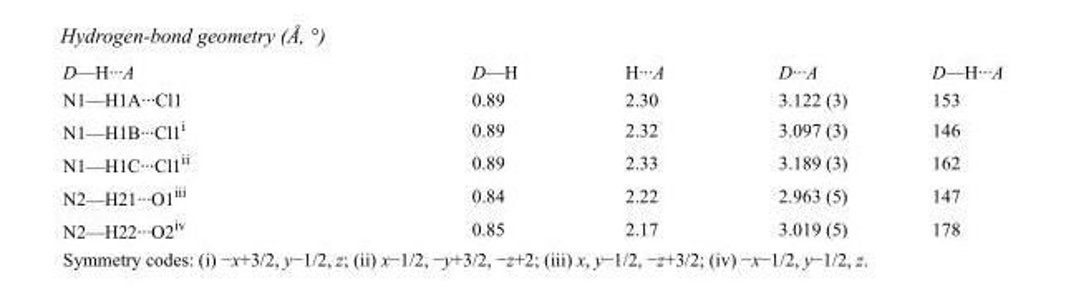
<table><tbody><tr><td>D—H···A</td><td>D—H</td><td>H···A</td><td>D···A</td><td>D—H···A</td></tr><tr><td>N1—H1A···Cl1</td><td>0.89</td><td>2.30</td><td>3.122 (3)</td><td>153</td></tr><tr><td>N1—H1B···Cl1<sup>i</sup></td><td>0.89</td><td>2.32</td><td>3.097 (3)</td><td>146</td></tr><tr><td>N1—H1C···Cl1<sup>ii</sup></td><td>0.89</td><td>2.33</td><td>3.189 (3)</td><td>162</td></tr><tr><td>N2—H21···O1<sup>iii</sup></td><td>0.84</td><td>2.22</td><td>2.963 (5)</td><td>147</td></tr><tr><td>N2—H22···O2<sup>iv</sup></td><td>0.85</td><td>2.17</td><td>3.019 (5)</td><td>178</td></tr></tbody></table>